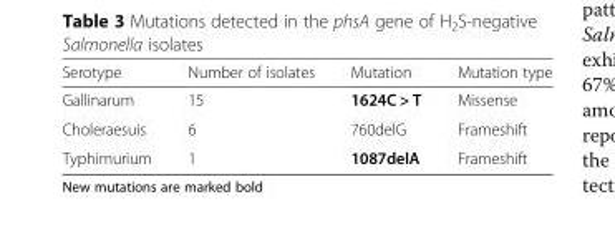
<table><thead><tr><td>Serotype</td><td>Number of isolates</td><td>Mutation</td><td>Mutation type</td></tr></thead><tbody><tr><td>Gallinarum</td><td>15</td><td>1624C &gt; T</td><td>Missense</td></tr><tr><td>Choleraesuis</td><td>6</td><td>760delG</td><td>Frameshift</td></tr><tr><td>Typhimurium</td><td>1</td><td>1087delA</td><td>Frameshift</td></tr></tbody></table>